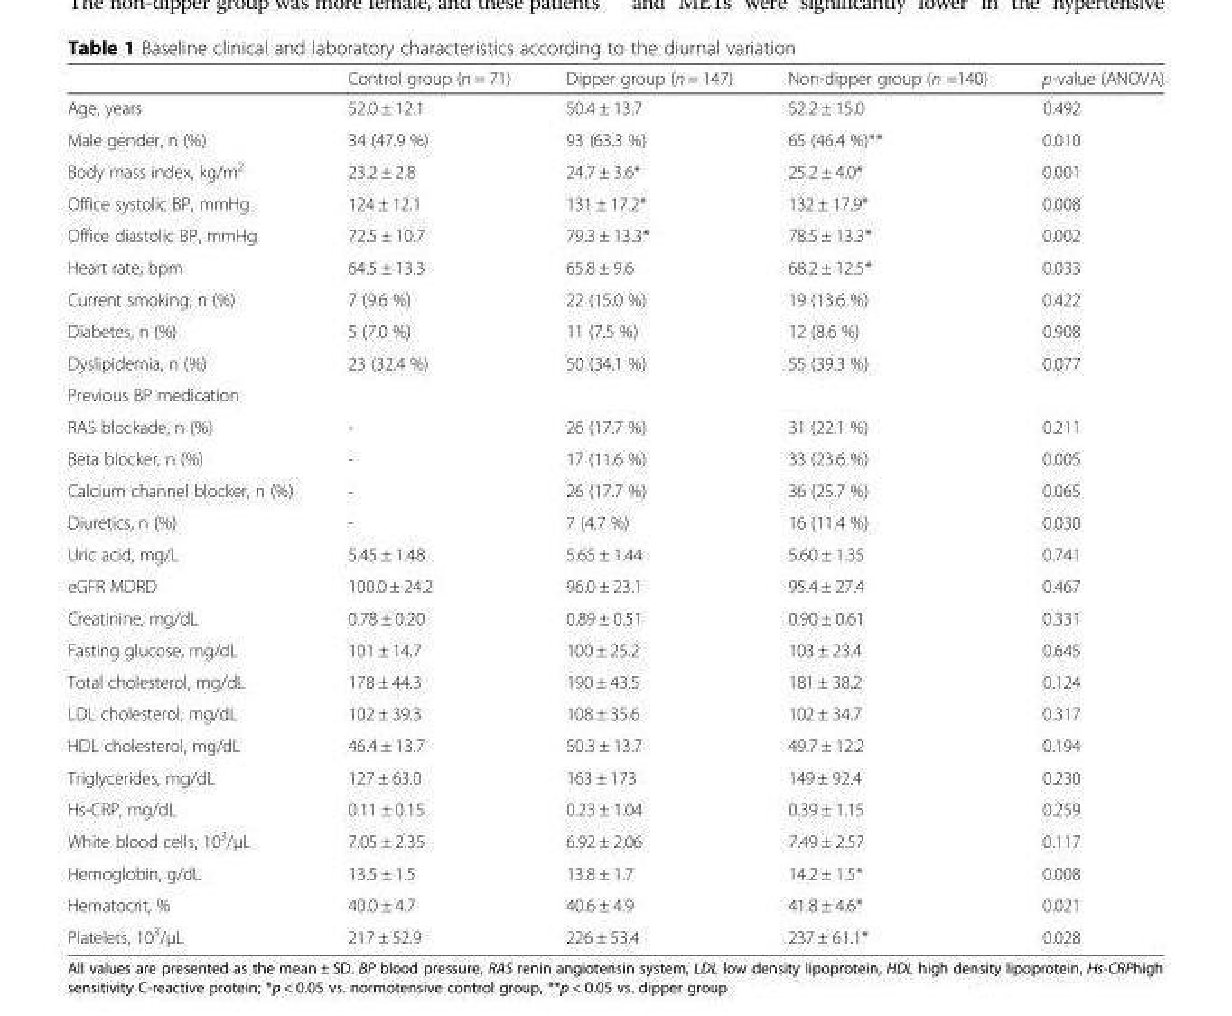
<table><thead><tr><td></td><td>Control group (n = 71)</td><td>Dipper group (n = 147)</td><td>Non-dipper group (n =140)</td><td>p-value (ANOVA)</td></tr></thead><tbody><tr><td>Age, years</td><td>52.0 ± 12.1</td><td>50.4 ± 13.7</td><td>52.2 ± 15.0</td><td>0.492</td></tr><tr><td>Male gender, n (%)</td><td>34 (47.9 %)</td><td>93 (63.3 %)</td><td>65 (46.4 %)**</td><td>0.010</td></tr><tr><td>Body mass index, kg/m<sup>2</sup></td><td>23.2 ± 2.8</td><td>24.7 ± 3.6*</td><td>25.2 ± 4.0*</td><td>0.001</td></tr><tr><td>Office systolic BP, mmHg</td><td>124 ± 12.1</td><td>131 ± 17.2*</td><td>132 ± 17.9*</td><td>0.008</td></tr><tr><td>Office diastolic BP, mmHg</td><td>72.5 ± 10.7</td><td>79.3 ± 13.3*</td><td>78.5 ± 13.3*</td><td>0.002</td></tr><tr><td>Heart rate, bpm</td><td>64.5 ± 13.3</td><td>65.8 ± 9.6</td><td>68.2 ± 12.5*</td><td>0.033</td></tr><tr><td>Current smoking, n (%)</td><td>7 (9.6 %)</td><td>22 (15.0 %)</td><td>19 (13.6 %)</td><td>0.422</td></tr><tr><td>Diabetes, n (%)</td><td>5 (7.0 %)</td><td>11 (7.5 %)</td><td>12 (8.6 %)</td><td>0.908</td></tr><tr><td>Dyslipidemia, n (%)</td><td>23 (32.4 %)</td><td>50 (34.1 %)</td><td>55 (39.3 %)</td><td>0.077</td></tr><tr><td colspan="5">Previous BP medication</td></tr><tr><td>RAS blockade, n (%)</td><td>-</td><td>26 (17.7 %)</td><td>31 (22.1 %)</td><td>0.211</td></tr><tr><td>Beta blocker, n (%)</td><td>-</td><td>17 (11.6 %)</td><td>33 (23.6 %)</td><td>0.005</td></tr><tr><td>Calcium channel blocker, n (%)</td><td>-</td><td>26 (17.7 %)</td><td>36 (25.7 %)</td><td>0.065</td></tr><tr><td>Diuretics, n (%)</td><td>-</td><td>7 (4.7 %)</td><td>16 (11.4 %)</td><td>0.030</td></tr><tr><td>Uric acid, mg/L</td><td>5.45 ± 1.48</td><td>5.65 ± 1.44</td><td>5.60 ± 1.35</td><td>0.741</td></tr><tr><td>eGFR MDRD</td><td>100.0 ± 24.2</td><td>96.0 ± 23.1</td><td>95.4 ± 27.4</td><td>0.467</td></tr><tr><td>Creatinine, mg/dL</td><td>0.78 ± 0.20</td><td>0.89 ± 0.51</td><td>0.90 ± 0.61</td><td>0.331</td></tr><tr><td>Fasting glucose, mg/dL</td><td>101 ± 14.7</td><td>100 ± 25.2</td><td>103 ± 23.4</td><td>0.645</td></tr><tr><td>Total cholesterol, mg/dL</td><td>178 ± 44.3</td><td>190 ± 43.5</td><td>181 ± 38.2</td><td>0.124</td></tr><tr><td>LDL cholesterol, mg/dL</td><td>102 ± 39.3</td><td>108 ± 35.6</td><td>102 ± 34.7</td><td>0.317</td></tr><tr><td>HDL cholesterol, mg/dL</td><td>46.4 ± 13.7</td><td>50.3 ± 13.7</td><td>49.7 ± 12.2</td><td>0.194</td></tr><tr><td>Triglycerides, mg/dL</td><td>127 ± 63.0</td><td>163 ± 173</td><td>149 ± 92.4</td><td>0.230</td></tr><tr><td>Hs-CRP, mg/dL</td><td>0.11 ± 0.15</td><td>0.23 ± 1.04</td><td>0.39 ± 1.15</td><td>0.259</td></tr><tr><td>White blood cells, 10<sup>3</sup>/μL</td><td>7.05 ± 2.35</td><td>6.92 ± 2.06</td><td>7.49 ± 2.57</td><td>0.117</td></tr><tr><td>Hemoglobin, g/dL</td><td>13.5 ± 1.5</td><td>13.8 ± 1.7</td><td>14.2 ± 1.5*</td><td>0.008</td></tr><tr><td>Hematocrit, %</td><td>40.0 ± 4.7</td><td>40.6 ± 4.9</td><td>41.8 ± 4.6*</td><td>0.021</td></tr><tr><td>Platelets, 10<sup>3</sup>/μL</td><td>217 ± 52.9</td><td>226 ± 53.4</td><td>237 ± 61.1*</td><td>0.028</td></tr></tbody></table>